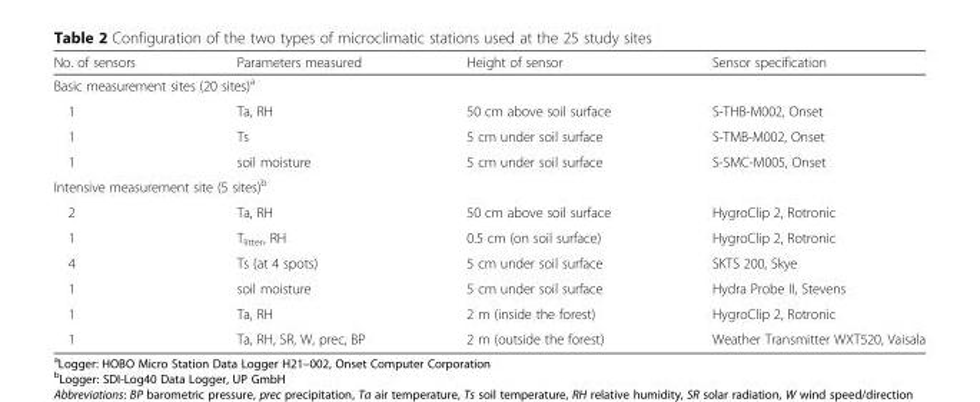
<table><thead><tr><td>No. of sensors</td><td>Parameters measured</td><td>Height of sensor</td><td>Sensor specification</td></tr></thead><tbody><tr><td colspan="4">Basic measurement sites (20 sites)<sup>a</sup></td></tr><tr><td>1</td><td>Ta, RH</td><td>50 cm above soil surface</td><td>S-THB-M002, Onset</td></tr><tr><td>1</td><td>Ts</td><td>5 cm under soil surface</td><td>S-TMB-M002, Onset</td></tr><tr><td>1</td><td>soil moisture</td><td>5 cm under soil surface</td><td>S-SMC-M005, Onset</td></tr><tr><td colspan="4">Intensive measurement site (5 sites)<sup>b</sup></td></tr><tr><td>2</td><td>Ta, RH</td><td>50 cm above soil surface</td><td>HygroClip 2, Rotronic</td></tr><tr><td>1</td><td>T<sub>litter</sub>, RH</td><td>0.5 cm (on soil surface)</td><td>HygroClip 2, Rotronic</td></tr><tr><td>4</td><td>Ts (at 4 spots)</td><td>5 cm under soil surface</td><td>SKTS 200, Skye</td></tr><tr><td>1</td><td>soil moisture</td><td>5 cm under soil surface</td><td>Hydra Probe II, Stevens</td></tr><tr><td>1</td><td>Ta, RH</td><td>2 m (inside the forest)</td><td>HygroClip 2, Rotronic</td></tr><tr><td>1</td><td>Ta, RH, SR, W, prec, BP</td><td>2 m (outside the forest)</td><td>Weather Transmitter WXT520, Vaisala</td></tr></tbody></table>